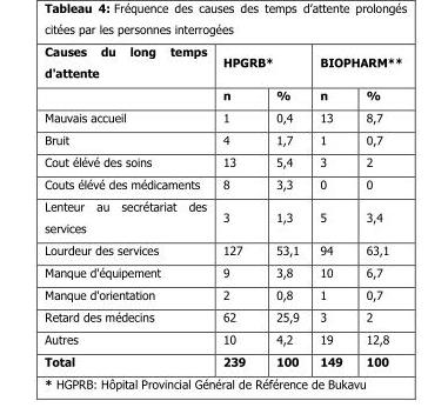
<table><thead><tr><td rowspan="2">Causes du long temps d&#x27;attente</td><td colspan="2">HPGRB*</td><td colspan="2">BIOPHARM**</td></tr><tr><td>n</td><td>%</td><td>n</td><td>%</td></tr></thead><tbody><tr><td>Mauvais accueil</td><td>1</td><td>0,4</td><td>13</td><td>8,7</td></tr><tr><td>Bruit</td><td>4</td><td>1,7</td><td>1</td><td>0,7</td></tr><tr><td>Cout élévé des soins</td><td>13</td><td>5,4</td><td>3</td><td>2</td></tr><tr><td>Couts élévé des médicaments</td><td>8</td><td>3,3</td><td>0</td><td>0</td></tr><tr><td>Lenteur au secrétariat des services</td><td>3</td><td>1,3</td><td>5</td><td>3,4</td></tr><tr><td>Lourdeur des services</td><td>127</td><td>53,1</td><td>94</td><td>63,1</td></tr><tr><td>Manque d&#x27;équipement</td><td>9</td><td>3,8</td><td>10</td><td>6,7</td></tr><tr><td>Manque d&#x27;orientation</td><td>2</td><td>0,8</td><td>1</td><td>0,7</td></tr><tr><td>Retard des médecins</td><td>62</td><td>25,9</td><td>3</td><td>2</td></tr><tr><td>Autres</td><td>10</td><td>4,2</td><td>19</td><td>12,8</td></tr><tr><td>Total</td><td>239</td><td>100</td><td>149</td><td>100</td></tr></tbody></table>